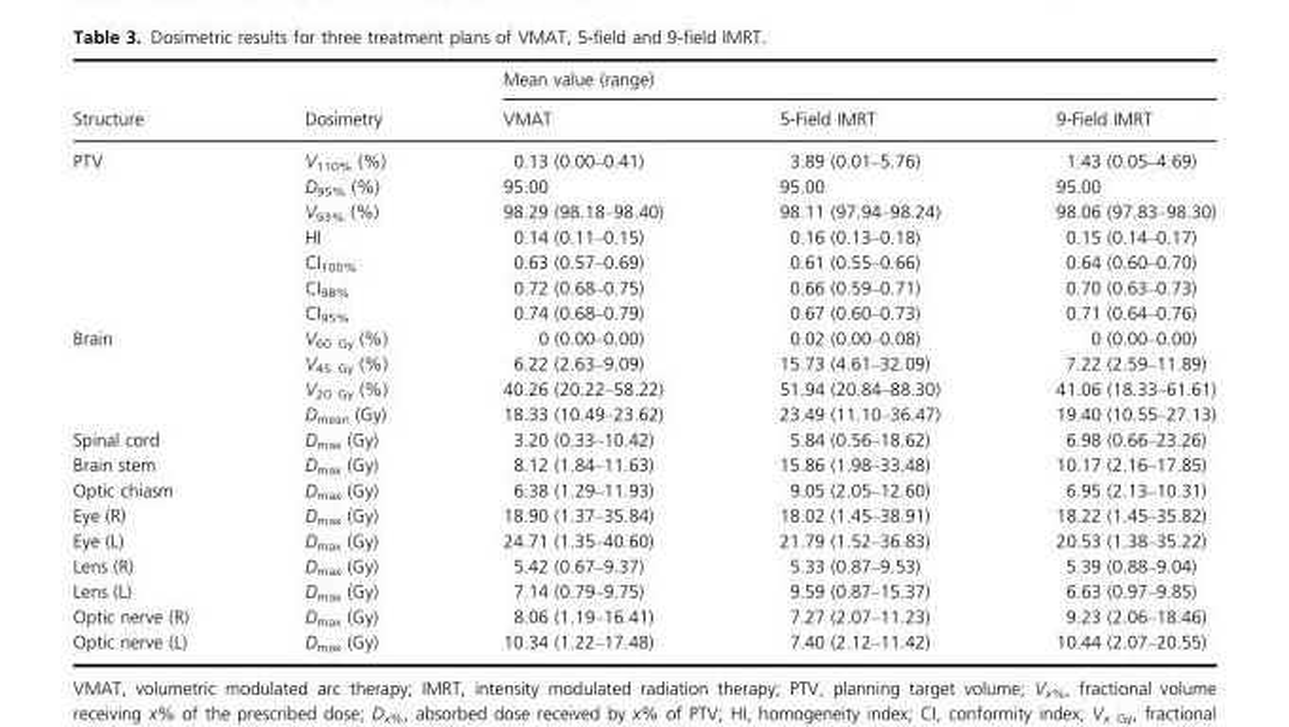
<table><thead><tr><td rowspan="2">Structure</td><td rowspan="2">Dosimetry</td><td colspan="3">Mean value (range)</td></tr><tr><td>VMAT</td><td>5-Field IMRT</td><td>9-Field IMRT</td></tr></thead><tbody><tr><td rowspan="7">PTV</td><td>V<sub>110%</sub> (%)</td><td>0.13 (0.00–0.41)</td><td>3.89 (0.01–5.76)</td><td>1.43 (0.05–4.69)</td></tr><tr><td>D<sub>95%</sub> (%)</td><td>95.00</td><td>95.00</td><td>95.00</td></tr><tr><td>V<sub>93%</sub> (%)</td><td>98.29 (98.18–98.40)</td><td>98.11 (97.94–98.24)</td><td>98.06 (97.83–98.30)</td></tr><tr><td>HI</td><td>0.14 (0.11–0.15)</td><td>0.16 (0.13–0.18)</td><td>0.15 (0.14–0.17)</td></tr><tr><td>CI<sub>100%</sub></td><td>0.63 (0.57–0.69)</td><td>0.61 (0.55–0.66)</td><td>0.64 (0.60–0.70)</td></tr><tr><td>CI<sub>98%</sub></td><td>0.72 (0.68–0.75)</td><td>0.66 (0.59–0.71)</td><td>0.70 (0.63–0.73)</td></tr><tr><td>CI<sub>95%</sub></td><td>0.74 (0.68–0.79)</td><td>0.67 (0.60–0.73)</td><td>0.71 (0.64–0.76)</td></tr><tr><td rowspan="4">Brain</td><td>V<sub>60 Gy</sub> (%)</td><td>0 (0.00–0.00)</td><td>0.02 (0.00–0.08)</td><td>0 (0.00–0.00)</td></tr><tr><td>V<sub>45 Gy</sub> (%)</td><td>6.22 (2.63–9.09)</td><td>15.73 (4.61–32.09)</td><td>7.22 (2.59–11.89)</td></tr><tr><td>V<sub>20 Gy</sub> (%)</td><td>40.26 (20.22–58.22)</td><td>51.94 (20.84–88.30)</td><td>41.06 (18.33–61.61)</td></tr><tr><td>D<sub>mean</sub> (Gy)</td><td>18.33 (10.49–23.62)</td><td>23.49 (11.10–36.47)</td><td>19.40 (10.55–27.13)</td></tr><tr><td>Spinal cord</td><td>D<sub>max</sub> (Gy)</td><td>3.20 (0.33–10.42)</td><td>5.84 (0.56–18.62)</td><td>6.98 (0.66–23.26)</td></tr><tr><td>Brain stem</td><td>D<sub>max</sub> (Gy)</td><td>8.12 (1.84–11.63)</td><td>15.86 (1.98–33.48)</td><td>10.17 (2.16–17.85)</td></tr><tr><td>Optic chiasm</td><td>D<sub>max</sub> (Gy)</td><td>6.38 (1.29–11.93)</td><td>9.05 (2.05–12.60)</td><td>6.95 (2.13–10.31)</td></tr><tr><td>Eye (R)</td><td>D<sub>max</sub> (Gy)</td><td>18.90 (1.37–35.84)</td><td>18.02 (1.45–38.91)</td><td>18.22 (1.45–35.82)</td></tr><tr><td>Eye (L)</td><td>D<sub>max</sub> (Gy)</td><td>24.71 (1.35–40.60)</td><td>21.79 (1.52–36.83)</td><td>20.53 (1.38–35.22)</td></tr><tr><td>Lens (R)</td><td>D<sub>max</sub> (Gy)</td><td>5.42 (0.67–9.37)</td><td>5.33 (0.87–9.53)</td><td>5.39 (0.88–9.04)</td></tr><tr><td>Lens (L)</td><td>D<sub>max</sub> (Gy)</td><td>7.14 (0.79–9.75)</td><td>9.59 (0.87–15.37)</td><td>6.63 (0.97–9.85)</td></tr><tr><td>Optic nerve (R)</td><td>D<sub>max</sub> (Gy)</td><td>8.06 (1.19–16.41)</td><td>7.27 (2.07–11.23)</td><td>9.23 (2.06–18.46)</td></tr><tr><td>Optic nerve (L)</td><td>D<sub>max</sub> (Gy)</td><td>10.34 (1.22–17.48)</td><td>7.40 (2.12–11.42)</td><td>10.44 (2.07–20.55)</td></tr></tbody></table>